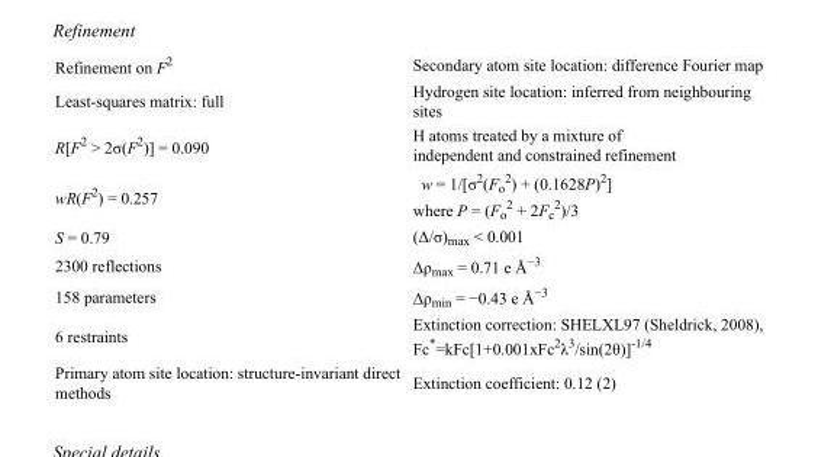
<table><tbody><tr><td>Refinement on F<sup>2</sup></td><td>Secondary atom site location: difference Fourier map</td></tr><tr><td>Least-squares matrix: full</td><td>Hydrogen site location: inferred from neighbouring sites</td></tr><tr><td>R[F<sup>2</sup> &gt; 2σ(F<sup>2</sup>)] = 0.090</td><td>H atoms treated by a mixture of independent and constrained refinement</td></tr><tr><td>wR(F<sup>2</sup>) = 0.257</td><td>w = 1/[σ<sup>2</sup>(F<sub>o</sub> <sup>2</sup>) + (0.1628P)<sup>2</sup>] where P = (F<sub>o</sub> <sup>2</sup> + 2F<sub>c</sub> <sup>2</sup>)/3</td></tr><tr><td>S = 0.79</td><td>(Δ/σ)<sub>max</sub> &lt; 0.001</td></tr><tr><td>2300 reflections</td><td>Δρ<sub>max</sub> = 0.71 e Å<sup>−3</sup></td></tr><tr><td>158 parameters</td><td>Δρ<sub>min</sub> = −0.43 e Å<sup>−3</sup></td></tr><tr><td>6 restraints</td><td>Extinction correction: SHELXL97 (Sheldrick, 2008), Fc*=kFc[1+0.001xFc<sup>2</sup>λ<sup>3</sup>/sin(2θ)]<sup>-1/4</sup></td></tr><tr><td>Primary atom site location: structure-invariant direct methods</td><td>Extinction coefficient: 0.12 (2)</td></tr></tbody></table>